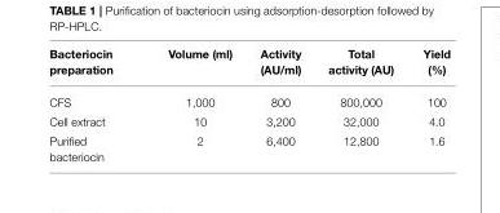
<table><thead><tr><td>Bacteriocin preparation</td><td>Volume (ml)</td><td>Activity (AU/ml)</td><td>Total activity (AU)</td><td>Yield (%)</td></tr></thead><tbody><tr><td>CFS</td><td>1,000</td><td>800</td><td>800,000</td><td>100</td></tr><tr><td>Cell extract</td><td>10</td><td>3,200</td><td>32,000</td><td>4.0</td></tr><tr><td>Purified bacteriocin</td><td>2</td><td>6,400</td><td>12,800</td><td>1.6</td></tr></tbody></table>